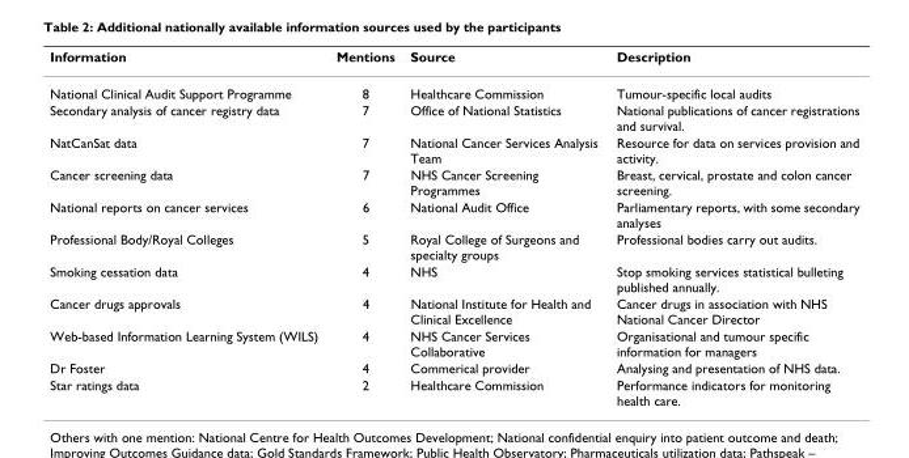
<table><thead><tr><td>Information</td><td>Mentions</td><td>Source</td><td>Description</td></tr></thead><tbody><tr><td>National Clinical Audit Support Programme</td><td>8</td><td>Healthcare Commission</td><td>Tumour-specific local audits</td></tr><tr><td>Secondary analysis of cancer registry data</td><td>7</td><td>Office of National Statistics</td><td>National publications of cancer registrations and survival.</td></tr><tr><td>NatCanSat data</td><td>7</td><td>National Cancer Services Analysis Team</td><td>Resource for data on services provision and activity.</td></tr><tr><td>Cancer screening data</td><td>7</td><td>NHS Cancer Screening Programmes</td><td>Breast, cervical, prostate and colon cancer screening.</td></tr><tr><td>National reports on cancer services</td><td>6</td><td>National Audit Office</td><td>Parliamentary reports, with some secondary analyses</td></tr><tr><td>Professional Body/Royal Colleges</td><td>5</td><td>Royal College of Surgeons and specialty groups</td><td>Professional bodies carry out audits.</td></tr><tr><td>Smoking cessation data</td><td>4</td><td>NHS</td><td>Stop smoking services statistical bulleting published annually.</td></tr><tr><td>Cancer drugs approvals</td><td>4</td><td>National Institute for Health and Clinical Excellence</td><td>Cancer drugs in association with NHS National Cancer Director</td></tr><tr><td>Web-based Information Learning System (WILS)</td><td>4</td><td>NHS Cancer Services Collaborative</td><td>Organisational and tumour specific information for managers</td></tr><tr><td>Dr Foster</td><td>4</td><td>Commerical provider</td><td>Analysing and presentation of NHS data.</td></tr><tr><td>Star ratings data</td><td>2</td><td>Healthcare Commission</td><td>Performance indicators for monitoring health care.</td></tr></tbody></table>